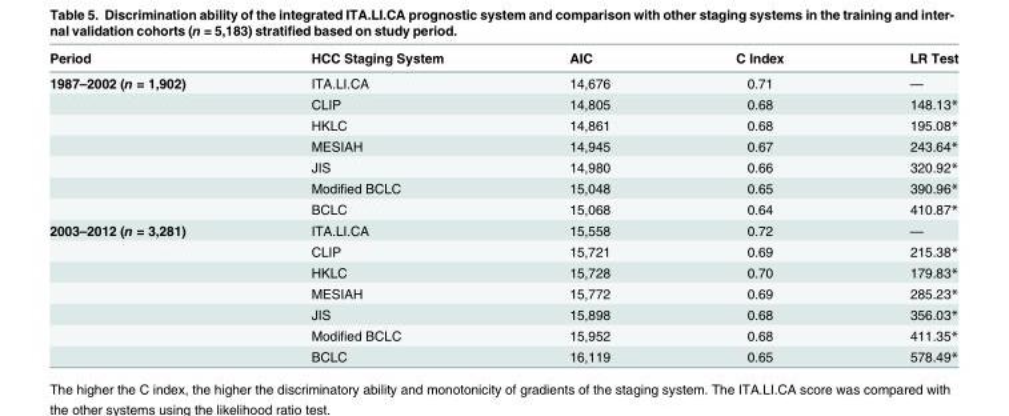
<table><thead><tr><td>Period</td><td>HCC Staging System</td><td>AIC</td><td>C Index</td><td>LR Test</td></tr></thead><tbody><tr><td rowspan="7">1987–2002 (n = 1,902)</td><td>ITA.LI.CA</td><td>14,676</td><td>0.71</td><td>—</td></tr><tr><td>CLIP</td><td>14,805</td><td>0.68</td><td>148.13*</td></tr><tr><td>HKLC</td><td>14,861</td><td>0.68</td><td>195.08*</td></tr><tr><td>MESIAH</td><td>14,945</td><td>0.67</td><td>243.64*</td></tr><tr><td>JIS</td><td>14,980</td><td>0.66</td><td>320.92*</td></tr><tr><td>Modified BCLC</td><td>15,048</td><td>0.65</td><td>390.96*</td></tr><tr><td>BCLC</td><td>15,068</td><td>0.64</td><td>410.87*</td></tr><tr><td rowspan="7">2003–2012 (n = 3,281)</td><td>ITA.LI.CA</td><td>15,558</td><td>0.72</td><td>—</td></tr><tr><td>CLIP</td><td>15,721</td><td>0.69</td><td>215.38*</td></tr><tr><td>HKLC</td><td>15,728</td><td>0.70</td><td>179.83*</td></tr><tr><td>MESIAH</td><td>15,772</td><td>0.69</td><td>285.23*</td></tr><tr><td>JIS</td><td>15,898</td><td>0.68</td><td>356.03*</td></tr><tr><td>Modified BCLC</td><td>15,952</td><td>0.68</td><td>411.35*</td></tr><tr><td>BCLC</td><td>16,119</td><td>0.65</td><td>578.49*</td></tr></tbody></table>